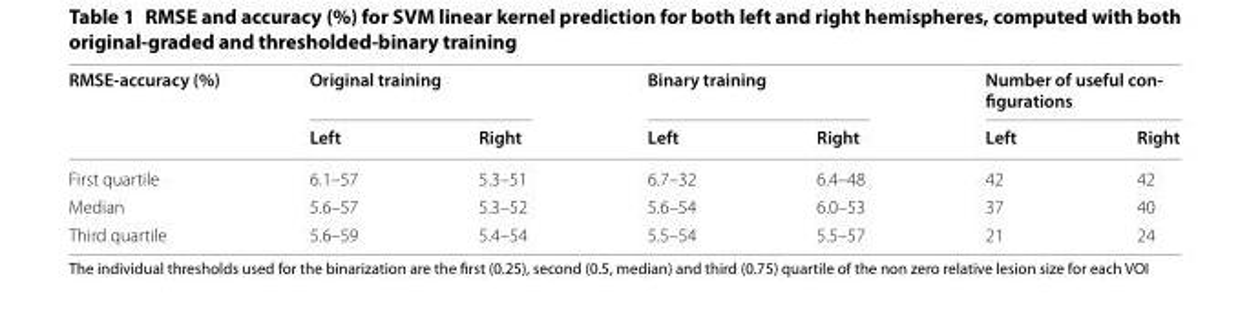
<table><thead><tr><td rowspan="2">RMSE‑accuracy (%)</td><td colspan="2">Original training</td><td colspan="2">Binary training</td><td colspan="2">Number of useful con‑ figurations</td></tr><tr><td>Left</td><td>Right</td><td>Left</td><td>Right</td><td>Left</td><td>Right</td></tr></thead><tbody><tr><td>First quartile</td><td>6.1–57</td><td>5.3–51</td><td>6.7–32</td><td>6.4–48</td><td>42</td><td>42</td></tr><tr><td>Median</td><td>5.6–57</td><td>5.3–52</td><td>5.6–54</td><td>6.0–53</td><td>37</td><td>40</td></tr><tr><td>Third quartile</td><td>5.6–59</td><td>5.4–54</td><td>5.5–54</td><td>5.5–57</td><td>21</td><td>24</td></tr></tbody></table>